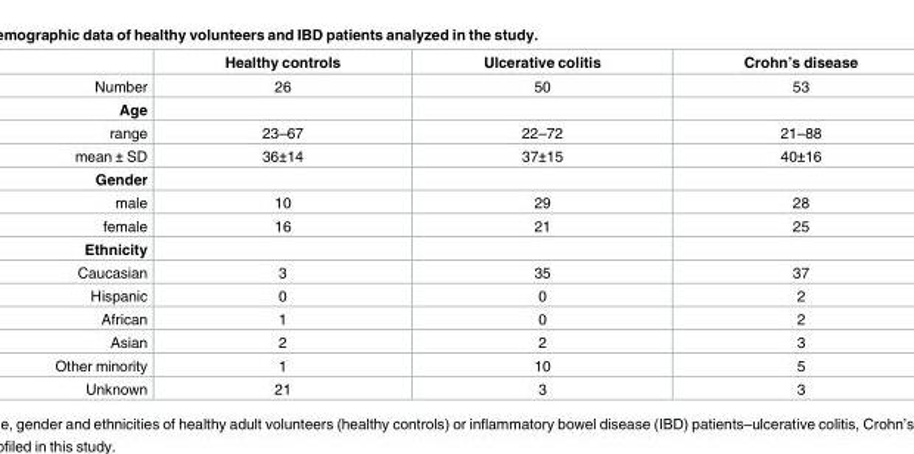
<table><thead><tr><td></td><td>Healthy controls</td><td>Ulcerative colitis</td><td>Crohn’s disease</td></tr></thead><tbody><tr><td>Number</td><td>26</td><td>50</td><td>53</td></tr><tr><td colspan="4">Age</td></tr><tr><td>range</td><td>23–67</td><td>22–72</td><td>21–88</td></tr><tr><td>mean ± SD</td><td>36±14</td><td>37±15</td><td>40±16</td></tr><tr><td colspan="4">Gender</td></tr><tr><td>male</td><td>10</td><td>29</td><td>28</td></tr><tr><td>female</td><td>16</td><td>21</td><td>25</td></tr><tr><td colspan="4">Ethnicity</td></tr><tr><td>Caucasian</td><td>3</td><td>35</td><td>37</td></tr><tr><td>Hispanic</td><td>0</td><td>0</td><td>2</td></tr><tr><td>African</td><td>1</td><td>0</td><td>2</td></tr><tr><td>Asian</td><td>2</td><td>2</td><td>3</td></tr><tr><td>Other minority</td><td>1</td><td>10</td><td>5</td></tr><tr><td>Unknown</td><td>21</td><td>3</td><td>3</td></tr></tbody></table>